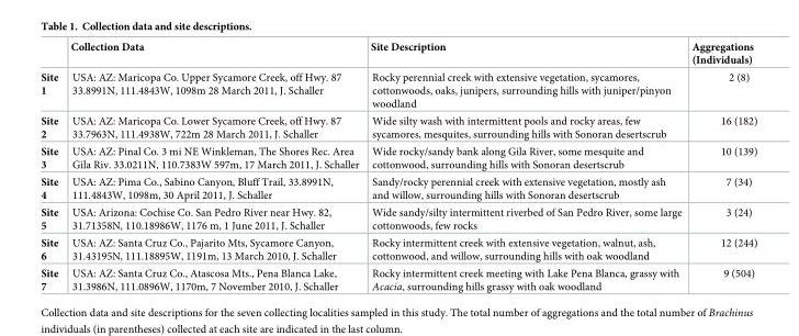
<table><thead><tr><td></td><td>Collection Data</td><td>Site Description</td><td>Aggregations (Individuals)</td></tr></thead><tbody><tr><td>Site 1</td><td>USA: AZ: Maricopa Co. Upper Sycamore Creek, off Hwy. 87 33.8991N, 111.4843W, 1098m 28 March 2011, J. Schaller</td><td>Rocky perennial creek with extensive vegetation, sycamores, cottonwoods, oaks, junipers, surrounding hills with juniper/pinyon woodland</td><td>2 (8)</td></tr><tr><td>Site 2</td><td>USA: AZ: Maricopa Co. Lower Sycamore Creek, off Hwy. 87 33.7963N, 111.4938W, 722m 28 March 2011, J. Schaller</td><td>Wide silty wash with intermittent pools and rocky areas, few sycamores, mesquites, surrounding hills with Sonoran desertscrub</td><td>16 (182)</td></tr><tr><td>Site 3</td><td>USA: AZ: Pinal Co. 3 mi NE Winkleman, The Shores Rec. Area Gila Riv. 33.0211N, 110.7383W 597m, 17 March 2011, J. Schaller</td><td>Wide rocky/sandy bank along Gila River, some mesquite and cottonwood, surrounding hills with Sonoran desertscrub</td><td>10 (139)</td></tr><tr><td>Site 4</td><td>USA: AZ: Pima Co., Sabino Canyon, Bluff Trail, 33.8991N, 111.4843W, 1098m, 30 April 2011, J. Schaller</td><td>Sandy/rocky perennial creek with extensive vegetation, mostly ash and willow, surrounding hills with Sonoran desertscrub</td><td>7 (34)</td></tr><tr><td>Site 5</td><td>USA: Arizona: Cochise Co. San Pedro River near Hwy. 82, 31.71358N, 110.18986W, 1176 m, 1 June 2011, J. Schaller</td><td>Wide sandy/silty intermittent riverbed of San Pedro River, some large cottonwoods, few rocks</td><td>3 (24)</td></tr><tr><td>Site 6</td><td>USA: AZ: Santa Cruz Co., Pajarito Mts, Sycamore Canyon, 31.43195N, 111.18895W, 1191m, 13 March 2010, J. Schaller</td><td>Rocky intermittent creek with extensive vegetation, walnut, ash, cottonwood, and willow, surrounding hills with oak woodland</td><td>12 (244)</td></tr><tr><td>Site 7</td><td>USA: AZ: Santa Cruz Co., Atascosa Mts., Pena Blanca Lake, 31.3986N, 111.0896W, 1170m, 7 November 2010, J. Schaller</td><td>Rocky intermittent creek meeting with Lake Pena Blanca, grassy with Acacia, surrounding hills grassy with oak woodland</td><td>9 (504)</td></tr></tbody></table>